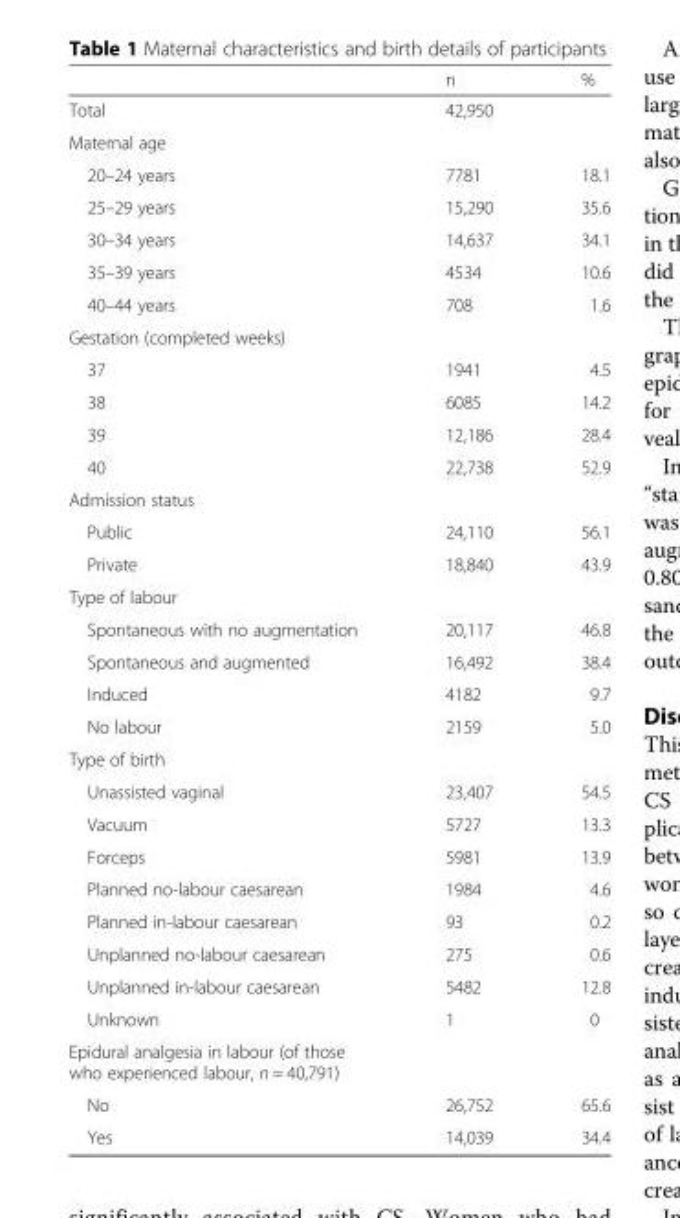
<table><thead><tr><td></td><td>n</td><td>%</td></tr></thead><tbody><tr><td>Total</td><td>42,950</td><td></td></tr><tr><td colspan="3">Maternal age</td></tr><tr><td>20–24 years</td><td>7781</td><td>18.1</td></tr><tr><td>25–29 years</td><td>15,290</td><td>35.6</td></tr><tr><td>30–34 years</td><td>14,637</td><td>34.1</td></tr><tr><td>35–39 years</td><td>4534</td><td>10.6</td></tr><tr><td>40–44 years</td><td>708</td><td>1.6</td></tr><tr><td colspan="3">Gestation (completed weeks)</td></tr><tr><td>37</td><td>1941</td><td>4.5</td></tr><tr><td>38</td><td>6085</td><td>14.2</td></tr><tr><td>39</td><td>12,186</td><td>28.4</td></tr><tr><td>40</td><td>22,738</td><td>52.9</td></tr><tr><td colspan="3">Admission status</td></tr><tr><td>Public</td><td>24,110</td><td>56.1</td></tr><tr><td>Private</td><td>18,840</td><td>43.9</td></tr><tr><td colspan="3">Type of labour</td></tr><tr><td>Spontaneous with no augmentation</td><td>20,117</td><td>46.8</td></tr><tr><td>Spontaneous and augmented</td><td>16,492</td><td>38.4</td></tr><tr><td>Induced</td><td>4182</td><td>9.7</td></tr><tr><td>No labour</td><td>2159</td><td>5.0</td></tr><tr><td colspan="3">Type of birth</td></tr><tr><td>Unassisted vaginal</td><td>23,407</td><td>54.5</td></tr><tr><td>Vacuum</td><td>5727</td><td>13.3</td></tr><tr><td>Forceps</td><td>5981</td><td>13.9</td></tr><tr><td>Planned no-labour caesarean</td><td>1984</td><td>4.6</td></tr><tr><td>Planned in-labour caesarean</td><td>93</td><td>0.2</td></tr><tr><td>Unplanned no-labour caesarean</td><td>275</td><td>0.6</td></tr><tr><td>Unplanned in-labour caesarean</td><td>5482</td><td>12.8</td></tr><tr><td>Unknown</td><td>1</td><td>0</td></tr><tr><td colspan="3">Epidural analgesia in labour (of those who experienced labour, n = 40,791)</td></tr><tr><td>No</td><td>26,752</td><td>65.6</td></tr><tr><td>Yes</td><td>14,039</td><td>34.4</td></tr></tbody></table>